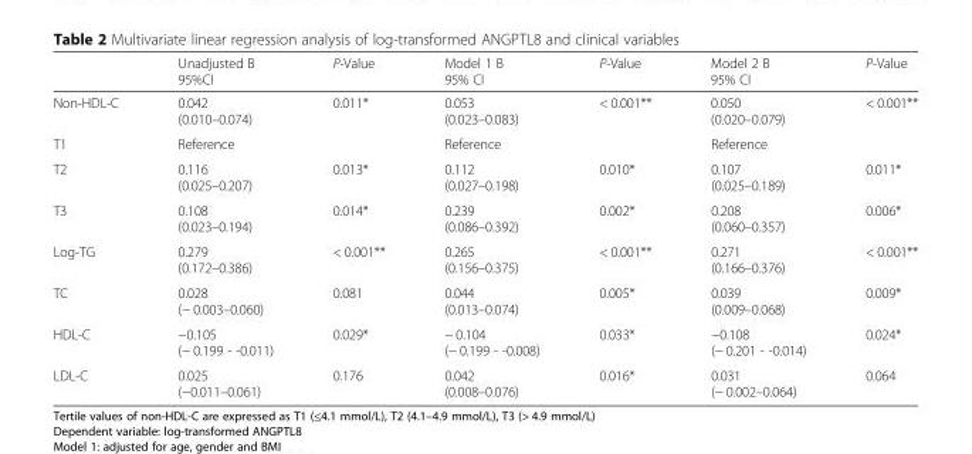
<table><thead><tr><td></td><td>Unadjusted Β 95%CI</td><td>P-Value</td><td>Model 1 Β 95% CI</td><td>P-Value</td><td>Model 2 Β 95% CI</td><td>P-Value</td></tr></thead><tbody><tr><td>Non-HDL-C</td><td>0.042 (0.010–0.074)</td><td>0.011*</td><td>0.053 (0.023–0.083)</td><td>&lt; 0.001**</td><td>0.050 (0.020–0.079)</td><td>&lt; 0.001**</td></tr><tr><td>T1</td><td>Reference</td><td></td><td>Reference</td><td></td><td>Reference</td><td></td></tr><tr><td>T2</td><td>0.116 (0.025–0.207)</td><td>0.013*</td><td>0.112 (0.027–0.198)</td><td>0.010*</td><td>0.107 (0.025–0.189)</td><td>0.011*</td></tr><tr><td>T3</td><td>0.108 (0.023–0.194)</td><td>0.014*</td><td>0.239 (0.086–0.392)</td><td>0.002*</td><td>0.208 (0.060–0.357)</td><td>0.006*</td></tr><tr><td>Log-TG</td><td>0.279 (0.172–0.386)</td><td>&lt; 0.001**</td><td>0.265 (0.156–0.375)</td><td>&lt; 0.001**</td><td>0.271 (0.166–0.376)</td><td>&lt; 0.001**</td></tr><tr><td>TC</td><td>0.028 (− 0.003–0.060)</td><td>0.081</td><td>0.044 (0.013–0.074)</td><td>0.005*</td><td>0.039 (0.009–0.068)</td><td>0.009*</td></tr><tr><td>HDL-C</td><td>−0.105 (− 0.199 - -0.011)</td><td>0.029*</td><td>− 0.104 (− 0.199 - -0.008)</td><td>0.033*</td><td>−0.108 (− 0.201 - -0.014)</td><td>0.024*</td></tr><tr><td>LDL-C</td><td>0.025 (−0.011–0.061)</td><td>0.176</td><td>0.042 (0.008–0.076)</td><td>0.016*</td><td>0.031 (− 0.002–0.064)</td><td>0.064</td></tr></tbody></table>